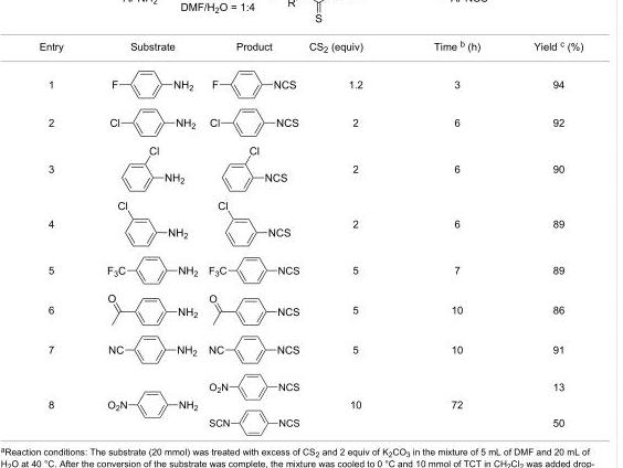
<table><tbody><tr><td>Entry</td><td>Substrate</td><td>Product</td><td>CS<sub>2</sub> (equiv)</td><td>Time <sup>b</sup> (h)</td><td>Yield <sup>c</sup> (%)</td></tr><tr><td>1</td><td></td><td></td><td>1.2</td><td>3</td><td>94</td></tr><tr><td>2</td><td></td><td></td><td>2</td><td>6</td><td>92</td></tr><tr><td>3</td><td></td><td></td><td>2</td><td>6</td><td>90</td></tr><tr><td>4</td><td></td><td></td><td>2</td><td>6</td><td>89</td></tr><tr><td>5</td><td></td><td></td><td>5</td><td>7</td><td>89</td></tr><tr><td>6</td><td></td><td></td><td>5</td><td>10</td><td>86</td></tr><tr><td>7</td><td></td><td></td><td>5</td><td>10</td><td>91</td></tr><tr><td rowspan="2">8</td><td rowspan="2"></td><td></td><td rowspan="2">10</td><td rowspan="2">72</td><td>13</td></tr><tr><td></td><td>50</td></tr></tbody></table>